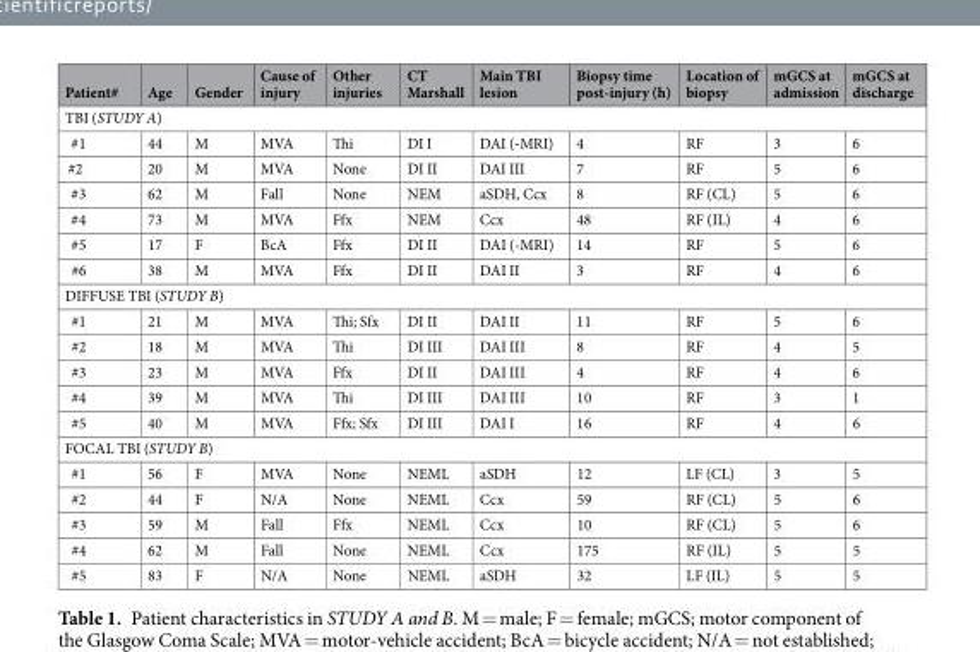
<table><thead><tr><td>Patient#</td><td>Age</td><td>Gender</td><td>Cause of injury</td><td>Other injuries</td><td>CT Marshall</td><td>Main TBI lesion</td><td>Biopsy time post-injury (h)</td><td>Location of biopsy</td><td>mGCS at admission</td><td>mGCS at discharge</td></tr></thead><tbody><tr><td colspan="11">TBI (STUDY A)</td></tr><tr><td>#1</td><td>44</td><td>M</td><td>MVA</td><td>Thi</td><td>DI I</td><td>DAI (-MRI)</td><td>4</td><td>RF</td><td>3</td><td>6</td></tr><tr><td>#2</td><td>20</td><td>M</td><td>MVA</td><td>None</td><td>DI II</td><td>DAI III</td><td>7</td><td>RF</td><td>5</td><td>6</td></tr><tr><td>#3</td><td>62</td><td>M</td><td>Fall</td><td>None</td><td>NEM</td><td>aSDH, Ccx</td><td>8</td><td>RF (CL)</td><td>5</td><td>6</td></tr><tr><td>#4</td><td>73</td><td>M</td><td>MVA</td><td>Ffx</td><td>NEM</td><td>Ccx</td><td>48</td><td>RF (IL)</td><td>4</td><td>6</td></tr><tr><td>#5</td><td>17</td><td>F</td><td>BcA</td><td>Ffx</td><td>DI II</td><td>DAI (-MRI)</td><td>14</td><td>RF</td><td>5</td><td>6</td></tr><tr><td>#6</td><td>38</td><td>M</td><td>MVA</td><td>Ffx</td><td>DI II</td><td>DAI II</td><td>3</td><td>RF</td><td>4</td><td>6</td></tr><tr><td colspan="11">DIFFUSE TBI (STUDY B)</td></tr><tr><td>#1</td><td>21</td><td>M</td><td>MVA</td><td>Thi; Sfx</td><td>DI II</td><td>DAI II</td><td>11</td><td>RF</td><td>5</td><td>6</td></tr><tr><td>#2</td><td>18</td><td>M</td><td>MVA</td><td>Thi</td><td>DI III</td><td>DAI III</td><td>8</td><td>RF</td><td>4</td><td>5</td></tr><tr><td>#3</td><td>23</td><td>M</td><td>MVA</td><td>Ffx</td><td>DI II</td><td>DAI III</td><td>4</td><td>RF</td><td>4</td><td>6</td></tr><tr><td>#4</td><td>39</td><td>M</td><td>MVA</td><td>Thi</td><td>DI III</td><td>DAI III</td><td>10</td><td>RF</td><td>3</td><td>1</td></tr><tr><td>#5</td><td>40</td><td>M</td><td>MVA</td><td>Ffx; Sfx</td><td>DI III</td><td>DAI I</td><td>16</td><td>RF</td><td>4</td><td>6</td></tr><tr><td colspan="11">FOCAL TBI (STUDY B)</td></tr><tr><td>#1</td><td>56</td><td>F</td><td>MVA</td><td>None</td><td>NEML</td><td>aSDH</td><td>12</td><td>LF (CL)</td><td>3</td><td>5</td></tr><tr><td>#2</td><td>44</td><td>F</td><td>N/A</td><td>None</td><td>NEML</td><td>Ccx</td><td>59</td><td>RF (CL)</td><td>5</td><td>6</td></tr><tr><td>#3</td><td>59</td><td>M</td><td>Fall</td><td>Ffx</td><td>NEML</td><td>Ccx</td><td>10</td><td>RF (CL)</td><td>5</td><td>6</td></tr><tr><td>#4</td><td>62</td><td>M</td><td>Fall</td><td>None</td><td>NEML</td><td>Ccx</td><td>175</td><td>RF (IL)</td><td>5</td><td>5</td></tr><tr><td>#5</td><td>83</td><td>F</td><td>N/A</td><td>None</td><td>NEML</td><td>aSDH</td><td>32</td><td>LF (IL)</td><td>5</td><td>5</td></tr></tbody></table>